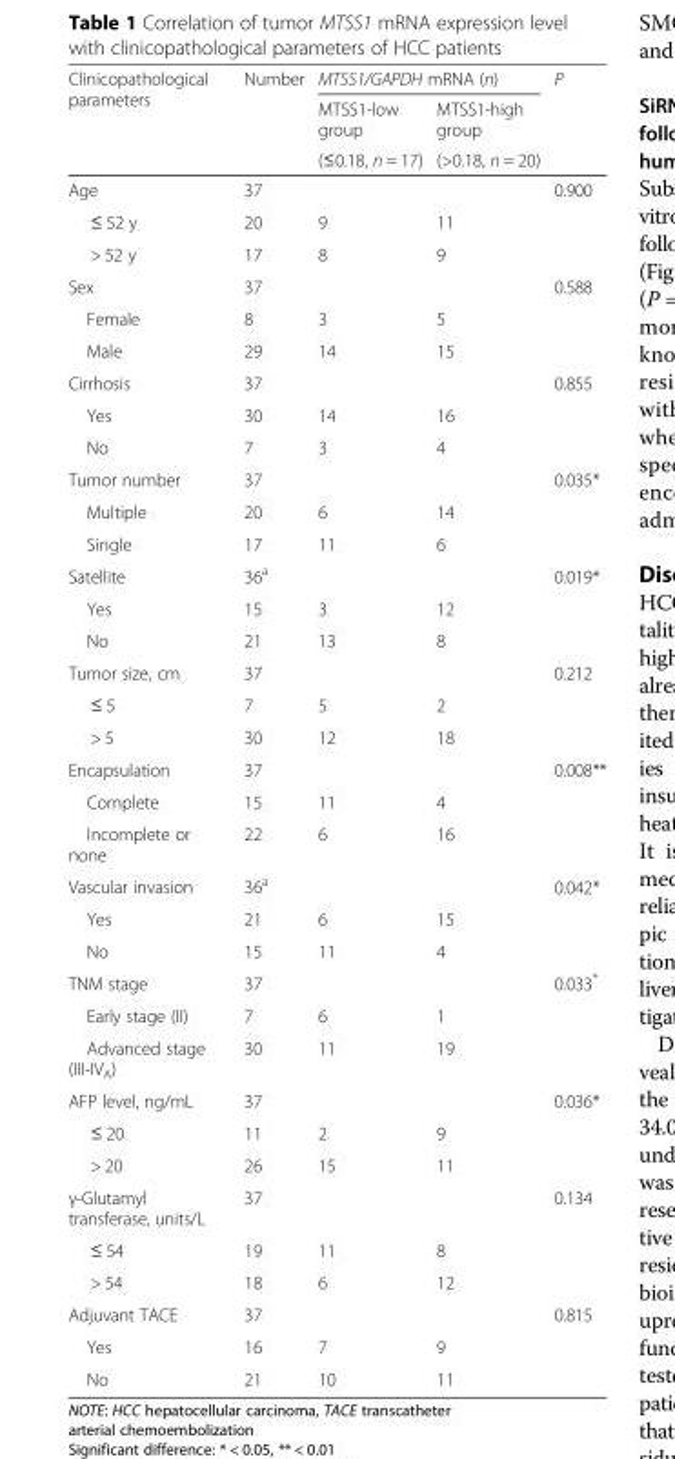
<table><thead><tr><td rowspan="3">Clinicopathological parameters</td><td rowspan="3">Number</td><td colspan="2">MTSS1/GAPDH mRNA (n)</td><td rowspan="3">P</td></tr><tr><td rowspan="2">MTSS1-low group (≤0.18, n = 17)</td><td rowspan="2">MTSS1-high group (&gt;0.18, n = 20)</td></tr><tr></tr></thead><tbody><tr><td>Age</td><td>37</td><td></td><td></td><td>0.900</td></tr><tr><td>≤ 52 y</td><td>20</td><td>9</td><td>11</td><td></td></tr><tr><td>&gt; 52 y</td><td>17</td><td>8</td><td>9</td><td></td></tr><tr><td>Sex</td><td>37</td><td></td><td></td><td>0.588</td></tr><tr><td>Female</td><td>8</td><td>3</td><td>5</td><td></td></tr><tr><td>Male</td><td>29</td><td>14</td><td>15</td><td></td></tr><tr><td>Cirrhosis</td><td>37</td><td></td><td></td><td>0.855</td></tr><tr><td>Yes</td><td>30</td><td>14</td><td>16</td><td></td></tr><tr><td>No</td><td>7</td><td>3</td><td>4</td><td></td></tr><tr><td>Tumor number</td><td>37</td><td></td><td></td><td>0.035*</td></tr><tr><td>Multiple</td><td>20</td><td>6</td><td>14</td><td></td></tr><tr><td>Single</td><td>17</td><td>11</td><td>6</td><td></td></tr><tr><td>Satellite</td><td>36<sup>a</sup></td><td></td><td></td><td>0.019*</td></tr><tr><td>Yes</td><td>15</td><td>3</td><td>12</td><td></td></tr><tr><td>No</td><td>21</td><td>13</td><td>8</td><td></td></tr><tr><td>Tumor size, cm</td><td>37</td><td></td><td></td><td>0.212</td></tr><tr><td>≤ 5</td><td>7</td><td>5</td><td>2</td><td></td></tr><tr><td>&gt; 5</td><td>30</td><td>12</td><td>18</td><td></td></tr><tr><td>Encapsulation</td><td>37</td><td></td><td></td><td>0.008**</td></tr><tr><td>Complete</td><td>15</td><td>11</td><td>4</td><td></td></tr><tr><td>Incomplete or none</td><td>22</td><td>6</td><td>16</td><td></td></tr><tr><td>Vascular invasion</td><td>36<sup>a</sup></td><td></td><td></td><td>0.042*</td></tr><tr><td>Yes</td><td>21</td><td>6</td><td>15</td><td></td></tr><tr><td>No</td><td>15</td><td>11</td><td>4</td><td></td></tr><tr><td>TNM stage</td><td>37</td><td></td><td></td><td>0.033*</td></tr><tr><td>Early stage (II)</td><td>7</td><td>6</td><td>1</td><td></td></tr><tr><td>Advanced stage (III-IV<sub>A</sub>)</td><td>30</td><td>11</td><td>19</td><td></td></tr><tr><td>AFP level, ng/mL</td><td>37</td><td></td><td></td><td>0.036*</td></tr><tr><td>≤ 20</td><td>11</td><td>2</td><td>9</td><td></td></tr><tr><td>&gt; 20</td><td>26</td><td>15</td><td>11</td><td></td></tr><tr><td>γ-Glutamyl transferase, units/L</td><td>37</td><td></td><td></td><td>0.134</td></tr><tr><td>≤ 54</td><td>19</td><td>11</td><td>8</td><td></td></tr><tr><td>&gt; 54</td><td>18</td><td>6</td><td>12</td><td></td></tr><tr><td>Adjuvant TACE</td><td>37</td><td></td><td></td><td>0.815</td></tr><tr><td>Yes</td><td>16</td><td>7</td><td>9</td><td></td></tr><tr><td>No</td><td>21</td><td>10</td><td>11</td><td></td></tr></tbody></table>